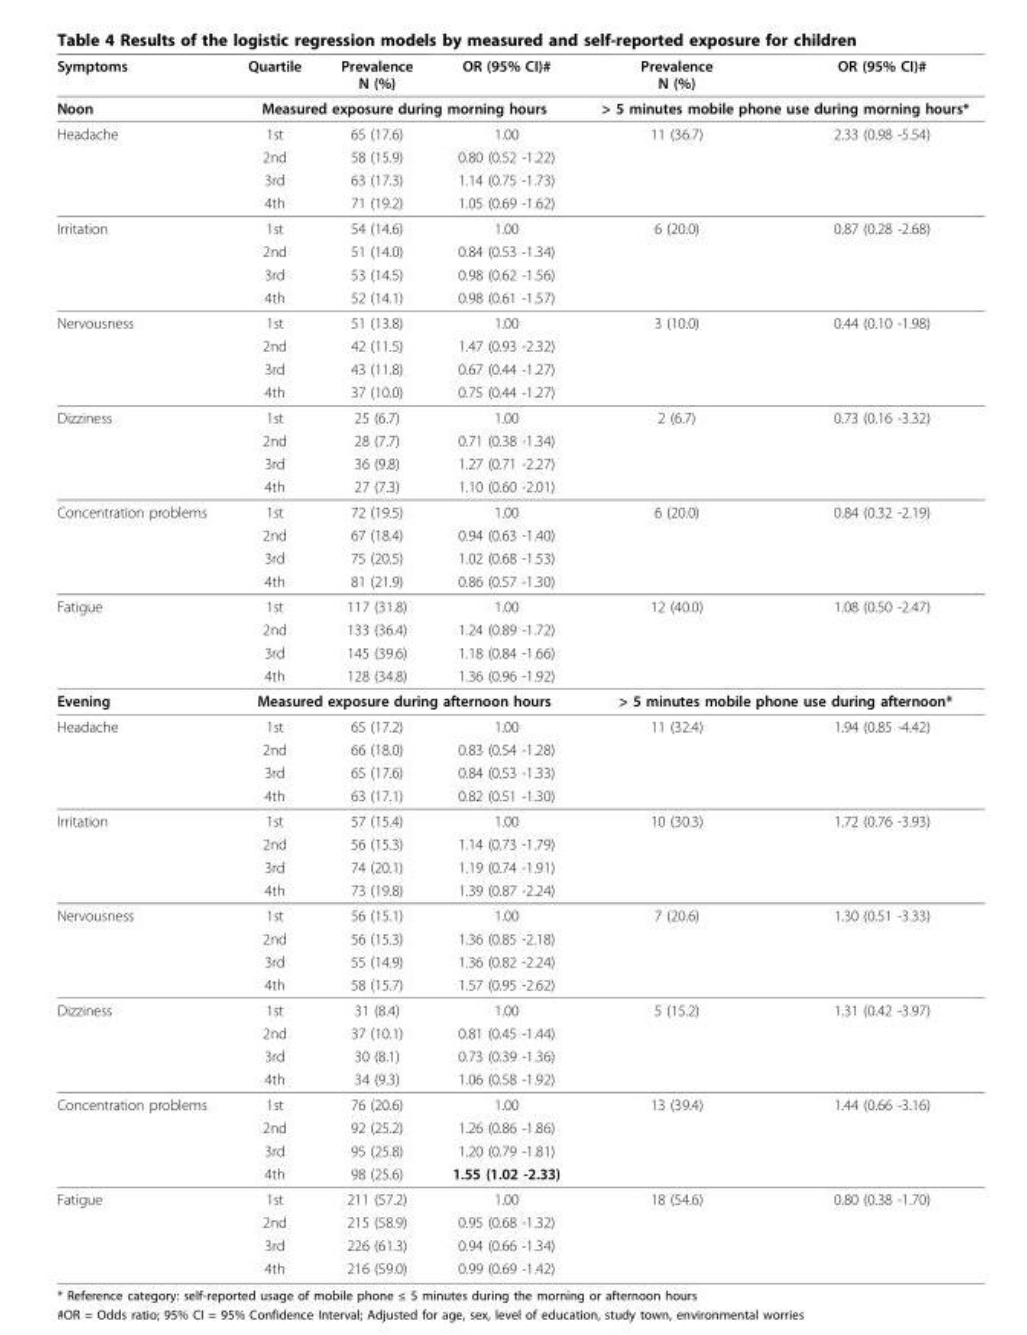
<table><thead><tr><td>Symptoms</td><td>Quartile</td><td>Prevalence N (%)</td><td>OR (95% CI)#</td><td>Prevalence N (%)</td><td>OR (95% CI)#</td></tr></thead><tbody><tr><td>Noon</td><td colspan="3">Measured exposure during morning hours</td><td colspan="2">&gt; 5 minutes mobile phone use during morning hours*</td></tr><tr><td rowspan="4">Headache</td><td>1st</td><td>65 (17.6)</td><td>1.00</td><td>11 (36.7)</td><td>2.33 (0.98 -5.54)</td></tr><tr><td>2nd</td><td>58 (15.9)</td><td>0.80 (0.52 -1.22)</td><td></td><td></td></tr><tr><td>3rd</td><td>63 (17.3)</td><td>1.14 (0.75 -1.73)</td><td></td><td></td></tr><tr><td>4th</td><td>71 (19.2)</td><td>1.05 (0.69 -1.62)</td><td></td><td></td></tr><tr><td rowspan="4">Irritation</td><td>1st</td><td>54 (14.6)</td><td>1.00</td><td>6 (20.0)</td><td>0.87 (0.28 -2.68)</td></tr><tr><td>2nd</td><td>51 (14.0)</td><td>0.84 (0.53 -1.34)</td><td></td><td></td></tr><tr><td>3rd</td><td>53 (14.5)</td><td>0.98 (0.62 -1.56)</td><td></td><td></td></tr><tr><td>4th</td><td>52 (14.1)</td><td>0.98 (0.61 -1.57)</td><td></td><td></td></tr><tr><td rowspan="4">Nervousness</td><td>1st</td><td>51 (13.8)</td><td>1.00</td><td>3 (10.0)</td><td>0.44 (0.10 -1.98)</td></tr><tr><td>2nd</td><td>42 (11.5)</td><td>1.47 (0.93 -2.32)</td><td></td><td></td></tr><tr><td>3rd</td><td>43 (11.8)</td><td>0.67 (0.44 -1.27)</td><td></td><td></td></tr><tr><td>4th</td><td>37 (10.0)</td><td>0.75 (0.44 -1.27)</td><td></td><td></td></tr><tr><td rowspan="4">Dizziness</td><td>1st</td><td>25 (6.7)</td><td>1.00</td><td>2 (6.7)</td><td>0.73 (0.16 -3.32)</td></tr><tr><td>2nd</td><td>28 (7.7)</td><td>0.71 (0.38 -1.34)</td><td></td><td></td></tr><tr><td>3rd</td><td>36 (9.8)</td><td>1.27 (0.71 -2.27)</td><td></td><td></td></tr><tr><td>4th</td><td>27 (7.3)</td><td>1.10 (0.60 -2.01)</td><td></td><td></td></tr><tr><td rowspan="4">Concentration problems</td><td>1st</td><td>72 (19.5)</td><td>1.00</td><td>6 (20.0)</td><td>0.84 (0.32 -2.19)</td></tr><tr><td>2nd</td><td>67 (18.4)</td><td>0.94 (0.63 -1.40)</td><td></td><td></td></tr><tr><td>3rd</td><td>75 (20.5)</td><td>1.02 (0.68 -1.53)</td><td></td><td></td></tr><tr><td>4th</td><td>81 (21.9)</td><td>0.86 (0.57 -1.30)</td><td></td><td></td></tr><tr><td rowspan="4">Fatigue</td><td>1st</td><td>117 (31.8)</td><td>1.00</td><td>12 (40.0)</td><td>1.08 (0.50 -2.47)</td></tr><tr><td>2nd</td><td>133 (36.4)</td><td>1.24 (0.89 -1.72)</td><td></td><td></td></tr><tr><td>3rd</td><td>145 (39.6)</td><td>1.18 (0.84 -1.66)</td><td></td><td></td></tr><tr><td>4th</td><td>128 (34.8)</td><td>1.36 (0.96 -1.92)</td><td></td><td></td></tr><tr><td>Evening</td><td colspan="3">Measured exposure during afternoon hours</td><td colspan="2">&gt; 5 minutes mobile phone use during afternoon*</td></tr><tr><td rowspan="4">Headache</td><td>1st</td><td>65 (17.2)</td><td>1.00</td><td>11 (32.4)</td><td>1.94 (0.85 -4.42)</td></tr><tr><td>2nd</td><td>66 (18.0)</td><td>0.83 (0.54 -1.28)</td><td></td><td></td></tr><tr><td>3rd</td><td>65 (17.6)</td><td>0.84 (0.53 -1.33)</td><td></td><td></td></tr><tr><td>4th</td><td>63 (17.1)</td><td>0.82 (0.51 -1.30)</td><td></td><td></td></tr><tr><td rowspan="4">Irritation</td><td>1st</td><td>57 (15.4)</td><td>1.00</td><td>10 (30.3)</td><td>1.72 (0.76 -3.93)</td></tr><tr><td>2nd</td><td>56 (15.3)</td><td>1.14 (0.73 -1.79)</td><td></td><td></td></tr><tr><td>3rd</td><td>74 (20.1)</td><td>1.19 (0.74 -1.91)</td><td></td><td></td></tr><tr><td>4th</td><td>73 (19.8)</td><td>1.39 (0.87 -2.24)</td><td></td><td></td></tr><tr><td rowspan="4">Nervousness</td><td>1st</td><td>56 (15.1)</td><td>1.00</td><td>7 (20.6)</td><td>1.30 (0.51 -3.33)</td></tr><tr><td>2nd</td><td>56 (15.3)</td><td>1.36 (0.85 -2.18)</td><td></td><td></td></tr><tr><td>3rd</td><td>55 (14.9)</td><td>1.36 (0.82 -2.24)</td><td></td><td></td></tr><tr><td>4th</td><td>58 (15.7)</td><td>1.57 (0.95 -2.62)</td><td></td><td></td></tr><tr><td rowspan="4">Dizziness</td><td>1st</td><td>31 (8.4)</td><td>1.00</td><td>5 (15.2)</td><td>1.31 (0.42 -3.97)</td></tr><tr><td>2nd</td><td>37 (10.1)</td><td>0.81 (0.45 -1.44)</td><td></td><td></td></tr><tr><td>3rd</td><td>30 (8.1)</td><td>0.73 (0.39 -1.36)</td><td></td><td></td></tr><tr><td>4th</td><td>34 (9.3)</td><td>1.06 (0.58 -1.92)</td><td></td><td></td></tr><tr><td rowspan="4">Concentration problems</td><td>1st</td><td>76 (20.6)</td><td>1.00</td><td>13 (39.4)</td><td>1.44 (0.66 -3.16)</td></tr><tr><td>2nd</td><td>92 (25.2)</td><td>1.26 (0.86 -1.86)</td><td></td><td></td></tr><tr><td>3rd</td><td>95 (25.8)</td><td>1.20 (0.79 -1.81)</td><td></td><td></td></tr><tr><td>4th</td><td>98 (25.6)</td><td>1.55 (1.02 -2.33)</td><td></td><td></td></tr><tr><td rowspan="4">Fatigue</td><td>1st</td><td>211 (57.2)</td><td>1.00</td><td>18 (54.6)</td><td>0.80 (0.38 -1.70)</td></tr><tr><td>2nd</td><td>215 (58.9)</td><td>0.95 (0.68 -1.32)</td><td></td><td></td></tr><tr><td>3rd</td><td>226 (61.3)</td><td>0.94 (0.66 -1.34)</td><td></td><td></td></tr><tr><td>4th</td><td>216 (59.0)</td><td>0.99 (0.69 -1.42)</td><td></td><td></td></tr></tbody></table>